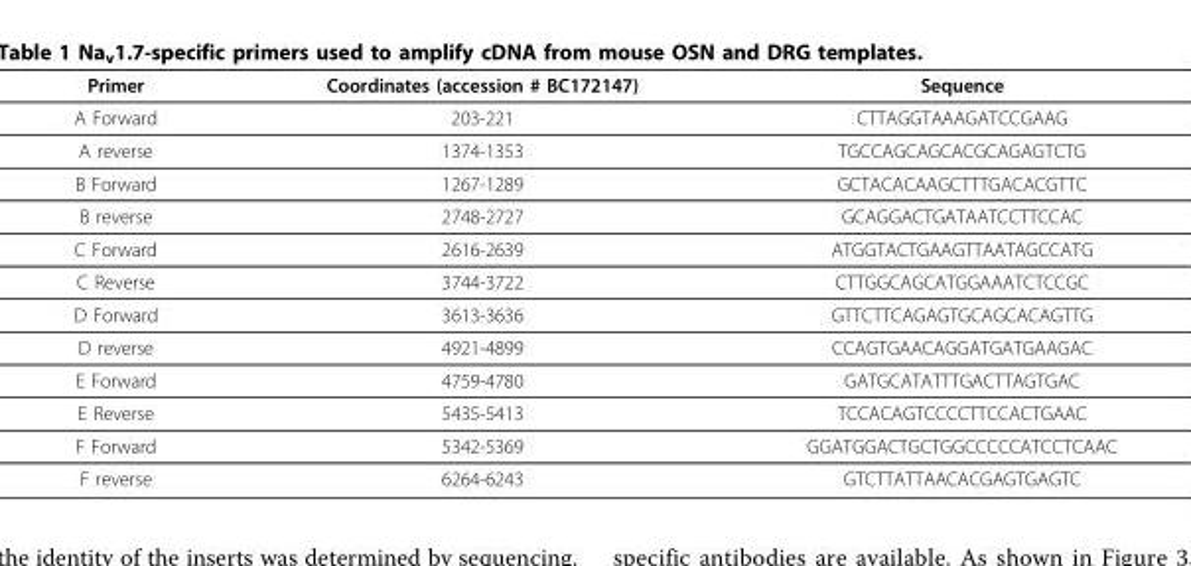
<table><thead><tr><td>Primer</td><td>Coordinates (accession # BC172147)</td><td>Sequence</td></tr></thead><tbody><tr><td>A Forward</td><td>203-221</td><td>CTTAGGTAAAGATCCGAAG</td></tr><tr><td>A reverse</td><td>1374-1353</td><td>TGCCAGCAGCACGCAGAGTCTG</td></tr><tr><td>B Forward</td><td>1267-1289</td><td>GCTACACAAGCTTTGACACGTTC</td></tr><tr><td>B reverse</td><td>2748-2727</td><td>GCAGGACTGATAATCCTTCCAC</td></tr><tr><td>C Forward</td><td>2616-2639</td><td>ATGGTACTGAAGTTAATAGCCATG</td></tr><tr><td>C Reverse</td><td>3744-3722</td><td>CTTGGCAGCATGGAAATCTCCGC</td></tr><tr><td>D Forward</td><td>3613-3636</td><td>GTTCTTCAGAGTGCAGCACAGTTG</td></tr><tr><td>D reverse</td><td>4921-4899</td><td>CCAGTGAACAGGATGATGAAGAC</td></tr><tr><td>E Forward</td><td>4759-4780</td><td>GATGCATATTTGACTTAGTGAC</td></tr><tr><td>E Reverse</td><td>5435-5413</td><td>TCCACAGTCCCCTTCCACTGAAC</td></tr><tr><td>F Forward</td><td>5342-5369</td><td>GGATGGACTGCTGGCCCCCATCCTCAAC</td></tr><tr><td>F reverse</td><td>6264-6243</td><td>GTCTTATTAACACGAGTGAGTC</td></tr></tbody></table>